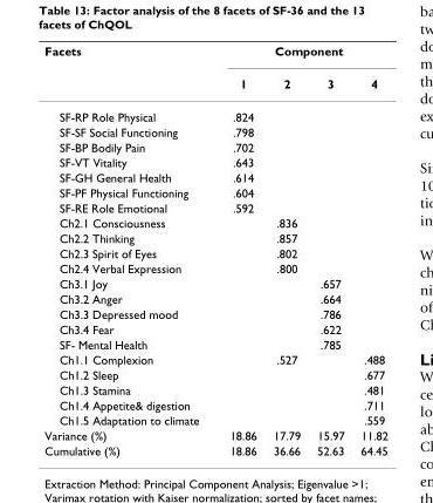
<table><thead><tr><td rowspan="2">Facets</td><td colspan="4">Component</td></tr><tr><td>1</td><td>2</td><td>3</td><td>4</td></tr></thead><tbody><tr><td>SF-RP Role Physical</td><td>.824</td><td></td><td></td><td></td></tr><tr><td>SF-SF Social Functioning</td><td>.798</td><td></td><td></td><td></td></tr><tr><td>SF-BP Bodily Pain</td><td>.702</td><td></td><td></td><td></td></tr><tr><td>SF-VT Vitality</td><td>.643</td><td></td><td></td><td></td></tr><tr><td>SF-GH General Health</td><td>.614</td><td></td><td></td><td></td></tr><tr><td>SF-PF Physical Functioning</td><td>.604</td><td></td><td></td><td></td></tr><tr><td>SF-RE Role Emotional</td><td>.592</td><td></td><td></td><td></td></tr><tr><td>Ch2.1 Consciousness</td><td></td><td>.836</td><td></td><td></td></tr><tr><td>Ch2.2 Thinking</td><td></td><td>.857</td><td></td><td></td></tr><tr><td>Ch2.3 Spirit of Eyes</td><td></td><td>.802</td><td></td><td></td></tr><tr><td>Ch2.4 Verbal Expression</td><td></td><td>.800</td><td></td><td></td></tr><tr><td>Ch3.1 Joy</td><td></td><td></td><td>.657</td><td></td></tr><tr><td>Ch3.2 Anger</td><td></td><td></td><td>.664</td><td></td></tr><tr><td>Ch3.3 Depressed mood</td><td></td><td></td><td>.786</td><td></td></tr><tr><td>Ch3.4 Fear</td><td></td><td></td><td>.622</td><td></td></tr><tr><td>SF- Mental Health</td><td></td><td></td><td>.785</td><td></td></tr><tr><td>Ch1.1 Complexion</td><td></td><td>.527</td><td></td><td>.488</td></tr><tr><td>Ch1.2 Sleep</td><td></td><td></td><td></td><td>.677</td></tr><tr><td>Ch1.3 Stamina</td><td></td><td></td><td></td><td>.481</td></tr><tr><td>Ch1.4 Appetite&amp; digestion</td><td></td><td></td><td></td><td>.711</td></tr><tr><td>Ch1.5 Adaptation to climate</td><td></td><td></td><td></td><td>.559</td></tr><tr><td>Variance (%)</td><td>18.86</td><td>17.79</td><td>15.97</td><td>11.82</td></tr><tr><td>Cumulative (%)</td><td>18.86</td><td>36.66</td><td>52.63</td><td>64.45</td></tr></tbody></table>